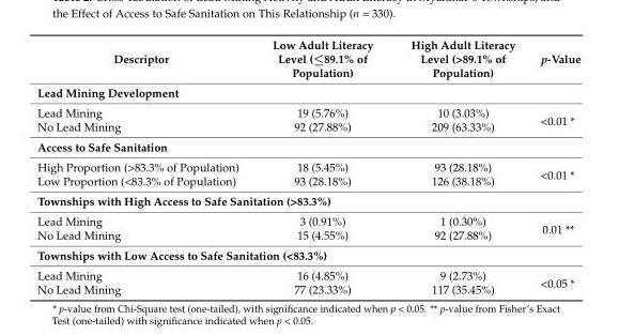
<table><thead><tr><td>Descriptor</td><td>Low Adult Literacy Level (≤89.1% of Population)</td><td>High Adult Literacy Level (&gt;89.1% of Population)</td><td>p-Value</td></tr></thead><tbody><tr><td colspan="4">Lead Mining Development</td></tr><tr><td>Lead Mining</td><td>19 (5.76%)</td><td>10 (3.03%)</td><td rowspan="2">&lt;0.01 *</td></tr><tr><td>No Lead Mining</td><td>92 (27.88%)</td><td>209 (63.33%)</td></tr><tr><td colspan="4">Access to Safe Sanitation</td></tr><tr><td>High Proportion (&gt;83.3% of Population)</td><td>18 (5.45%)</td><td>93 (28.18%)</td><td rowspan="2">&lt;0.01 *</td></tr><tr><td>Low Proportion (&lt;83.3% of Population)</td><td>93 (28.18%)</td><td>126 (38.18%)</td></tr><tr><td colspan="4">Townships with High Access to Safe Sanitation (&gt;83.3%)</td></tr><tr><td>Lead Mining</td><td>3 (0.91%)</td><td>1 (0.30%)</td><td rowspan="2">0.01 **</td></tr><tr><td>No Lead Mining</td><td>15 (4.55%)</td><td>92 (27.88%)</td></tr><tr><td colspan="4">Townships with Low Access to Safe Sanitation (&lt;83.3%)</td></tr><tr><td>Lead Mining</td><td>16 (4.85%)</td><td>9 (2.73%)</td><td rowspan="2">&lt;0.05 *</td></tr><tr><td>No Lead Mining</td><td>77 (23.33%)</td><td>117 (35.45%)</td></tr></tbody></table>